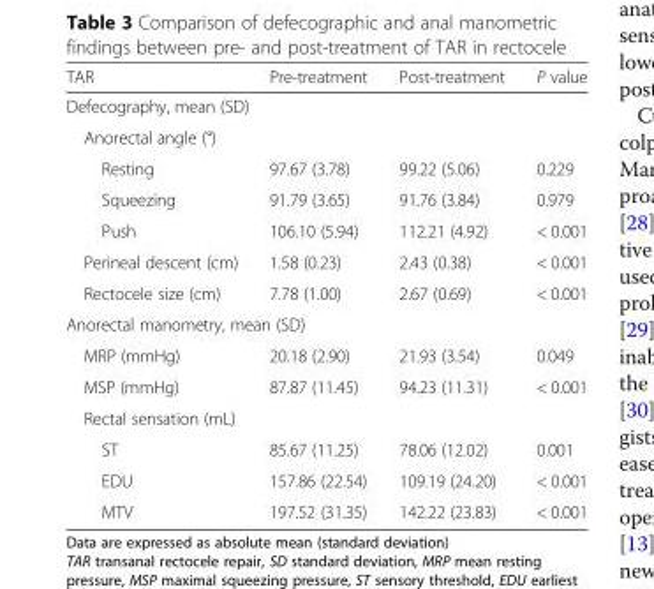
<table><thead><tr><td>TAR</td><td>Pre-treatment</td><td>Post-treatment</td><td>P value</td></tr></thead><tbody><tr><td colspan="4">Defecography, mean (SD)</td></tr><tr><td colspan="4">Anorectal angle (°)</td></tr><tr><td>Resting</td><td>97.67 (3.78)</td><td>99.22 (5.06)</td><td>0.229</td></tr><tr><td>Squeezing</td><td>91.79 (3.65)</td><td>91.76 (3.84)</td><td>0.979</td></tr><tr><td>Push</td><td>106.10 (5.94)</td><td>112.21 (4.92)</td><td>&lt; 0.001</td></tr><tr><td>Perineal descent (cm)</td><td>1.58 (0.23)</td><td>2.43 (0.38)</td><td>&lt; 0.001</td></tr><tr><td>Rectocele size (cm)</td><td>7.78 (1.00)</td><td>2.67 (0.69)</td><td>&lt; 0.001</td></tr><tr><td colspan="4">Anorectal manometry, mean (SD)</td></tr><tr><td>MRP (mmHg)</td><td>20.18 (2.90)</td><td>21.93 (3.54)</td><td>0.049</td></tr><tr><td>MSP (mmHg)</td><td>87.87 (11.45)</td><td>94.23 (11.31)</td><td>&lt; 0.001</td></tr><tr><td colspan="4">Rectal sensation (mL)</td></tr><tr><td>ST</td><td>85.67 (11.25)</td><td>78.06 (12.02)</td><td>0.001</td></tr><tr><td>EDU</td><td>157.86 (22.54)</td><td>109.19 (24.20)</td><td>&lt; 0.001</td></tr><tr><td>MTV</td><td>197.52 (31.35)</td><td>142.22 (23.83)</td><td>&lt; 0.001</td></tr></tbody></table>